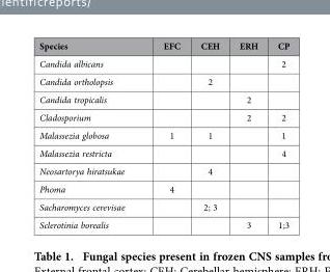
<table><thead><tr><td>Species</td><td>EFC</td><td>CEH</td><td>ERH</td><td>CP</td></tr></thead><tbody><tr><td>Candida albicans</td><td></td><td></td><td></td><td>2</td></tr><tr><td>Candida ortholopsis</td><td></td><td>2</td><td></td><td></td></tr><tr><td>Candida tropicalis</td><td></td><td></td><td>2</td><td></td></tr><tr><td>Cladosporium</td><td></td><td></td><td>2</td><td>2</td></tr><tr><td>Malassezia globosa</td><td>1</td><td>1</td><td></td><td>1</td></tr><tr><td>Malassezia restricta</td><td></td><td></td><td></td><td>4</td></tr><tr><td>Neosartorya hiratsukae</td><td></td><td>4</td><td></td><td></td></tr><tr><td>Phoma</td><td>4</td><td></td><td></td><td></td></tr><tr><td>Sacharomyces cerevisae</td><td></td><td>2; 3</td><td></td><td></td></tr><tr><td>Sclerotinia borealis</td><td></td><td></td><td>3</td><td>1;3</td></tr></tbody></table>